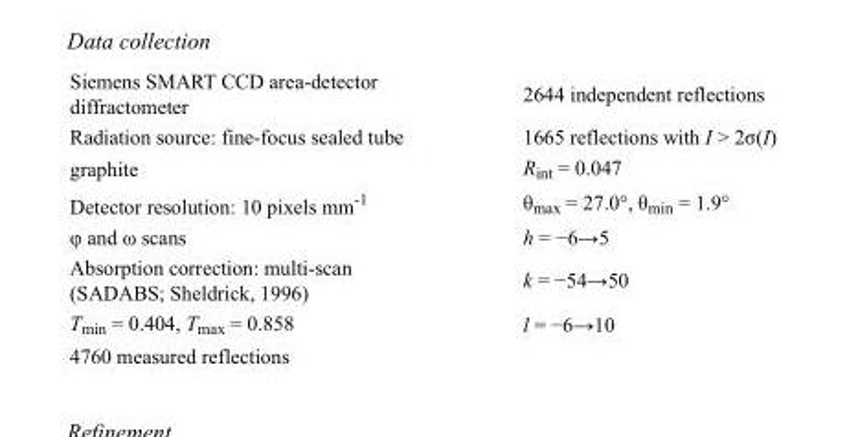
<table><tbody><tr><td>Siemens SMART CCD area-detector diffractometer</td><td>2644 independent reflections</td></tr><tr><td>Radiation source: fine-focus sealed tube</td><td>1665 reflections with I &gt; 2σ(I)</td></tr><tr><td>graphite</td><td>R<sub>int</sub> = 0.047</td></tr><tr><td>Detector resolution: 10 pixels mm<sup>-1</sup></td><td>θ<sub>max</sub> = 27.0°, θ<sub>min</sub> = 1.9°</td></tr><tr><td>φ and ω scans</td><td>h = −6→5</td></tr><tr><td>Absorption correction: multi-scan (SADABS; Sheldrick, 1996)</td><td>k = −54→50</td></tr><tr><td>T<sub>min</sub> = 0.404, T<sub>max</sub> = 0.858</td><td>l = −6→10</td></tr><tr><td>4760 measured reflections</td><td></td></tr></tbody></table>